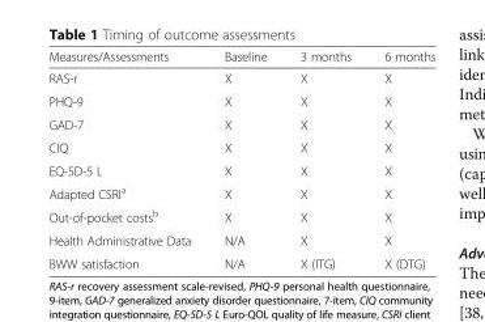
<table><thead><tr><td>Measures/Assessments</td><td>Baseline</td><td>3 months</td><td>6 months</td></tr></thead><tbody><tr><td>RAS-r</td><td>X</td><td>X</td><td>X</td></tr><tr><td>PHQ-9</td><td>X</td><td>X</td><td>X</td></tr><tr><td>GAD-7</td><td>X</td><td>X</td><td>X</td></tr><tr><td>CIQ</td><td>X</td><td>X</td><td>X</td></tr><tr><td>EQ-5D-5 L</td><td>X</td><td>X</td><td>X</td></tr><tr><td>Adapted CSRI<sup>a</sup></td><td>X</td><td>X</td><td>X</td></tr><tr><td>Out-of-pocket costs<sup>b</sup></td><td>X</td><td>X</td><td>X</td></tr><tr><td>Health Administrative Data</td><td>N/A</td><td>X</td><td>X</td></tr><tr><td>BWW satisfaction</td><td>N/A</td><td>X (ITG)</td><td>X (DTG)</td></tr></tbody></table>